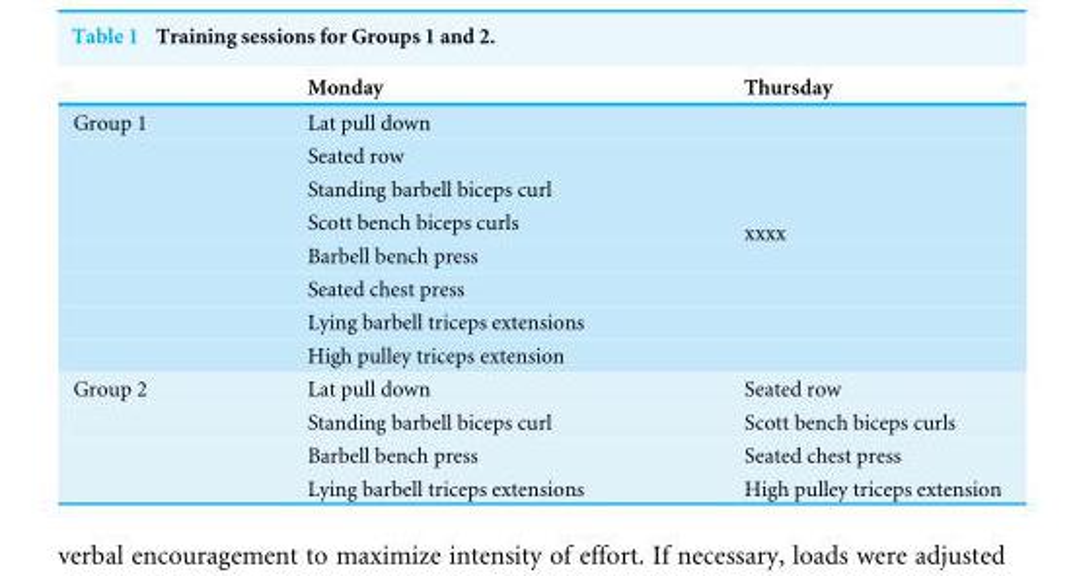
<table><thead><tr><td></td><td>Monday</td><td>Thursday</td></tr></thead><tbody><tr><td rowspan="8">Group 1</td><td>Lat pull down</td><td rowspan="8">xxxx</td></tr><tr><td>Seated row</td></tr><tr><td>Standing barbell biceps curl</td></tr><tr><td>Scott bench biceps curls</td></tr><tr><td>Barbell bench press</td></tr><tr><td>Seated chest press</td></tr><tr><td>Lying barbell triceps extensions</td></tr><tr><td>High pulley triceps extension</td></tr><tr><td rowspan="4">Group 2</td><td>Lat pull down</td><td>Seated row</td></tr><tr><td>Standing barbell biceps curl</td><td>Scott bench biceps curls</td></tr><tr><td>Barbell bench press</td><td>Seated chest press</td></tr><tr><td>Lying barbell triceps extensions</td><td>High pulley triceps extension</td></tr></tbody></table>